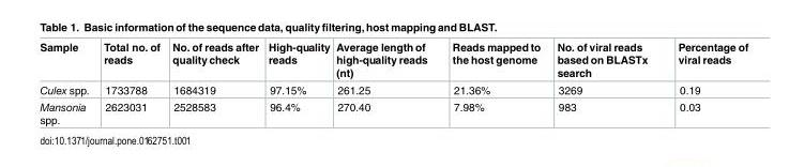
<table><thead><tr><td>Sample</td><td>Total no. of reads</td><td>No. of reads after quality check</td><td>High-quality reads</td><td>Average length of high-quality reads (nt)</td><td>Reads mapped to the host genome</td><td>No. of viral reads based on BLASTx search</td><td>Percentage of viral reads</td></tr></thead><tbody><tr><td>Culex spp.</td><td>1733788</td><td>1684319</td><td>97.15%</td><td>261.25</td><td>21.36%</td><td>3269</td><td>0.19</td></tr><tr><td>Mansonia spp.</td><td>2623031</td><td>2528583</td><td>96.4%</td><td>270.40</td><td>7.98%</td><td>983</td><td>0.03</td></tr></tbody></table>